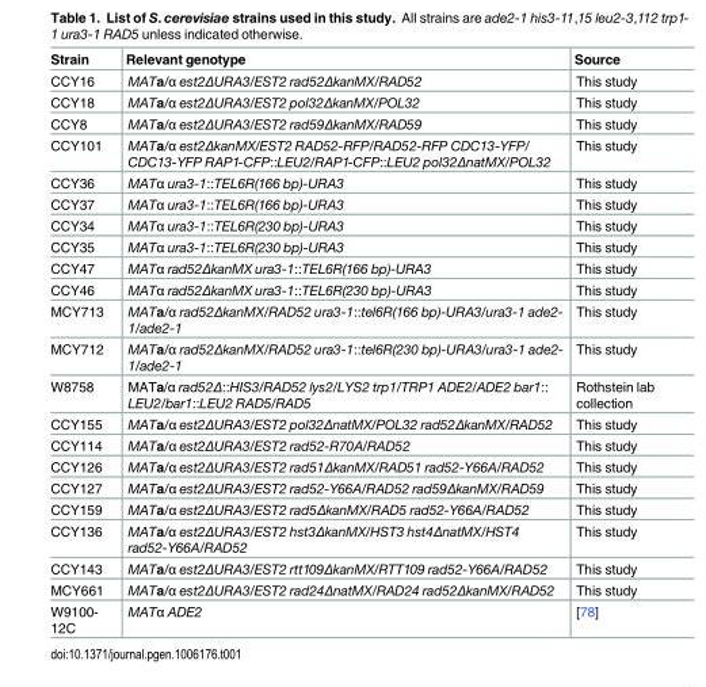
<table><thead><tr><td>Strain</td><td>Relevant genotype</td><td>Source</td></tr></thead><tbody><tr><td>CCY16</td><td>MATa/α est2ΔURA3/EST2 rad52ΔkanMX/RAD52</td><td>This study</td></tr><tr><td>CCY18</td><td>MATa/α est2ΔURA3/EST2 pol32ΔkanMX/POL32</td><td>This study</td></tr><tr><td>CCY8</td><td>MATa/α est2ΔURA3/EST2 rad59ΔkanMX/RAD59</td><td>This study</td></tr><tr><td>CCY101</td><td>MATa/α est2ΔkanMX/EST2 RAD52-RFP/RAD52-RFP CDC13-YFP/ CDC13-YFP RAP1-CFP::LEU2/RAP1-CFP::LEU2 pol32ΔnatMX/POL32</td><td>This study</td></tr><tr><td>CCY36</td><td>MATα ura3-1::TEL6R(166 bp)-URA3</td><td>This study</td></tr><tr><td>CCY37</td><td>MATα ura3-1::TEL6R(166 bp)-URA3</td><td>This study</td></tr><tr><td>CCY34</td><td>MATα ura3-1::TEL6R(230 bp)-URA3</td><td>This study</td></tr><tr><td>CCY35</td><td>MATα ura3-1::TEL6R(230 bp)-URA3</td><td>This study</td></tr><tr><td>CCY47</td><td>MATα rad52ΔkanMX ura3-1::TEL6R(166 bp)-URA3</td><td>This study</td></tr><tr><td>CCY46</td><td>MATα rad52ΔkanMX ura3-1::TEL6R(230 bp)-URA3</td><td>This study</td></tr><tr><td>MCY713</td><td>MATa/α rad52ΔkanMX/RAD52 ura3-1::tel6R(166 bp)-URA3/ura3-1 ade2- 1/ade2-1</td><td>This study</td></tr><tr><td>MCY712</td><td>MATa/α rad52ΔkanMX/RAD52 ura3-1::tel6R(230 bp)-URA3/ura3-1 ade2- 1/ade2-1</td><td>This study</td></tr><tr><td>W8758</td><td>MATa/α rad52Δ::HIS3/RAD52 lys2/LYS2 trp1/TRP1 ADE2/ADE2 bar1:: LEU2/bar1::LEU2 RAD5/RAD5</td><td>Rothstein lab collection</td></tr><tr><td>CCY155</td><td>MATa/α est2ΔURA3/EST2 pol32ΔnatMX/POL32 rad52ΔkanMX/RAD52</td><td>This study</td></tr><tr><td>CCY114</td><td>MATa/α est2ΔURA3/EST2 rad52-R70A/RAD52</td><td>This study</td></tr><tr><td>CCY126</td><td>MATa/α est2ΔURA3/EST2 rad51ΔkanMX/RAD51 rad52-Y66A/RAD52</td><td>This study</td></tr><tr><td>CCY127</td><td>MATa/α est2ΔURA3/EST2 rad52-Y66A/RAD52 rad59ΔkanMX/RAD59</td><td>This study</td></tr><tr><td>CCY159</td><td>MATa/α est2ΔURA3/EST2 rad5ΔkanMX/RAD5 rad52-Y66A/RAD52</td><td>This study</td></tr><tr><td>CCY136</td><td>MATa/α est2ΔURA3/EST2 hst3ΔkanMX/HST3 hst4ΔnatMX/HST4 rad52-Y66A/RAD52</td><td>This study</td></tr><tr><td>CCY143</td><td>MATa/α est2ΔURA3/EST2 rtt109ΔkanMX/RTT109 rad52-Y66A/RAD52</td><td>This study</td></tr><tr><td>MCY661</td><td>MATa/α est2ΔURA3/EST2 rad24ΔnatMX/RAD24 rad52ΔkanMX/RAD52</td><td>This study</td></tr><tr><td>W9100- 12C</td><td>MATα ADE2</td><td>[78]</td></tr></tbody></table>